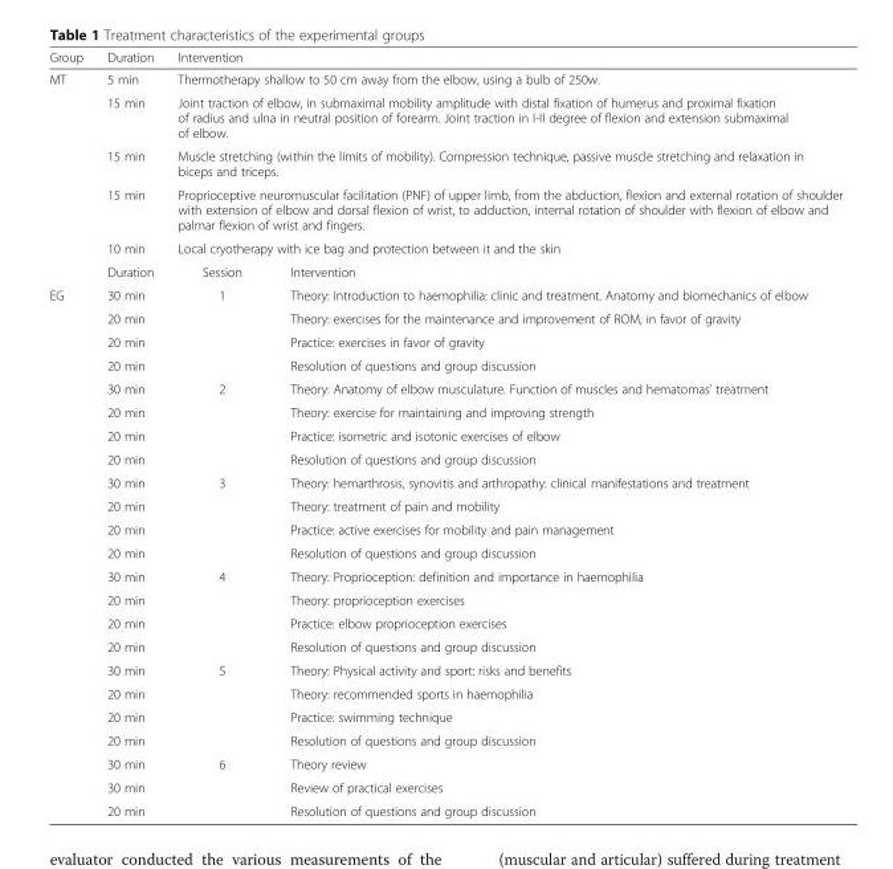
<table><thead><tr><td>Group</td><td>Duration</td><td colspan="2">Intervention</td></tr></thead><tbody><tr><td rowspan="6">MT</td><td>5 min</td><td colspan="2">Thermotherapy shallow to 50 cm away from the elbow, using a bulb of 250w.</td></tr><tr><td>15 min</td><td colspan="2">Joint traction of elbow, in submaximal mobility amplitude with distal fixation of humerus and proximal fixation of radius and ulna in neutral position of forearm. Joint traction in I-II degree of flexion and extension submaximal of elbow.</td></tr><tr><td>15 min</td><td colspan="2">Muscle stretching (within the limits of mobility). Compression technique, passive muscle stretching and relaxation in biceps and triceps.</td></tr><tr><td>15 min</td><td colspan="2">Proprioceptive neuromuscular facilitation (PNF) of upper limb, from the abduction, flexion and external rotation of shoulder with extension of elbow and dorsal flexion of wrist, to adduction, internal rotation of shoulder with flexion of elbow and palmar flexion of wrist and fingers.</td></tr><tr><td>10 min</td><td colspan="2">Local cryotherapy with ice bag and protection between it and the skin</td></tr><tr><td>Duration</td><td>Session</td><td>Intervention</td></tr><tr><td rowspan="23">EG</td><td>30 min</td><td rowspan="4">1</td><td>Theory: Introduction to haemophilia: clinic and treatment. Anatomy and biomechanics of elbow</td></tr><tr><td>20 min</td><td>Theory: exercises for the maintenance and improvement of ROM, in favor of gravity</td></tr><tr><td>20 min</td><td>Practice: exercises in favor of gravity</td></tr><tr><td>20 min</td><td>Resolution of questions and group discussion</td></tr><tr><td>30 min</td><td rowspan="4">2</td><td>Theory: Anatomy of elbow musculature. Function of muscles and hematomas’ treatment</td></tr><tr><td>20 min</td><td>Theory: exercise for maintaining and improving strength</td></tr><tr><td>20 min</td><td>Practice: isometric and isotonic exercises of elbow</td></tr><tr><td>20 min</td><td>Resolution of questions and group discussion</td></tr><tr><td>30 min</td><td rowspan="4">3</td><td>Theory: hemarthrosis, synovitis and arthropathy: clinical manifestations and treatment</td></tr><tr><td>20 min</td><td>Theory: treatment of pain and mobility</td></tr><tr><td>20 min</td><td>Practice: active exercises for mobility and pain management</td></tr><tr><td>20 min</td><td>Resolution of questions and group discussion</td></tr><tr><td>30 min</td><td rowspan="4">4</td><td>Theory: Proprioception: definition and importance in haemophilia</td></tr><tr><td>20 min</td><td>Theory: proprioception exercises</td></tr><tr><td>20 min</td><td>Practice: elbow proprioception exercises</td></tr><tr><td>20 min</td><td>Resolution of questions and group discussion</td></tr><tr><td>30 min</td><td rowspan="4">5</td><td>Theory: Physical activity and sport: risks and benefits</td></tr><tr><td>20 min</td><td>Theory: recommended sports in haemophilia</td></tr><tr><td>20 min</td><td>Practice: swimming technique</td></tr><tr><td>20 min</td><td>Resolution of questions and group discussion</td></tr><tr><td>30 min</td><td rowspan="3">6</td><td>Theory review</td></tr><tr><td>30 min</td><td>Review of practical exercises</td></tr><tr><td>20 min</td><td>Resolution of questions and group discussion</td></tr></tbody></table>